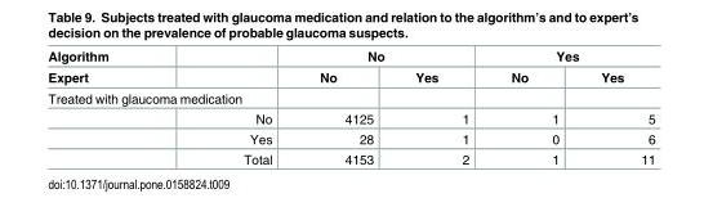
<table><thead><tr><td rowspan="2">Algorithm Expert</td><td rowspan="2"></td><td colspan="2">No</td><td colspan="2">Yes</td></tr><tr><td>No</td><td>Yes</td><td>No</td><td>Yes</td></tr></thead><tbody><tr><td colspan="6">Treated with glaucoma medication</td></tr><tr><td></td><td>No</td><td>4125</td><td>1</td><td>1</td><td>5</td></tr><tr><td></td><td>Yes</td><td>28</td><td>1</td><td>0</td><td>6</td></tr><tr><td></td><td>Total</td><td>4153</td><td>2</td><td>1</td><td>11</td></tr></tbody></table>